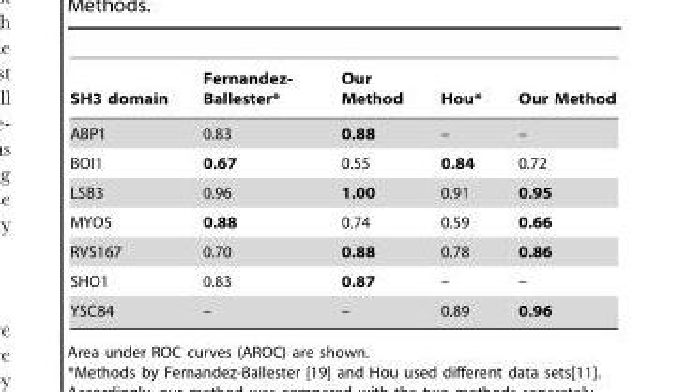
<table><thead><tr><td>SH3 domain</td><td>Fernandez- Ballester*</td><td>Our Method</td><td>Hou*</td><td>Our Method</td></tr></thead><tbody><tr><td>ABP1</td><td>0.83</td><td>0.88</td><td>–</td><td>–</td></tr><tr><td>BOI1</td><td>0.67</td><td>0.55</td><td>0.84</td><td>0.72</td></tr><tr><td>LSB3</td><td>0.96</td><td>1.00</td><td>0.91</td><td>0.95</td></tr><tr><td>MYO5</td><td>0.88</td><td>0.74</td><td>0.59</td><td>0.66</td></tr><tr><td>RVS167</td><td>0.70</td><td>0.88</td><td>0.78</td><td>0.86</td></tr><tr><td>SHO1</td><td>0.83</td><td>0.87</td><td>–</td><td>–</td></tr><tr><td>YSC84</td><td>–</td><td>–</td><td>0.89</td><td>0.96</td></tr></tbody></table>